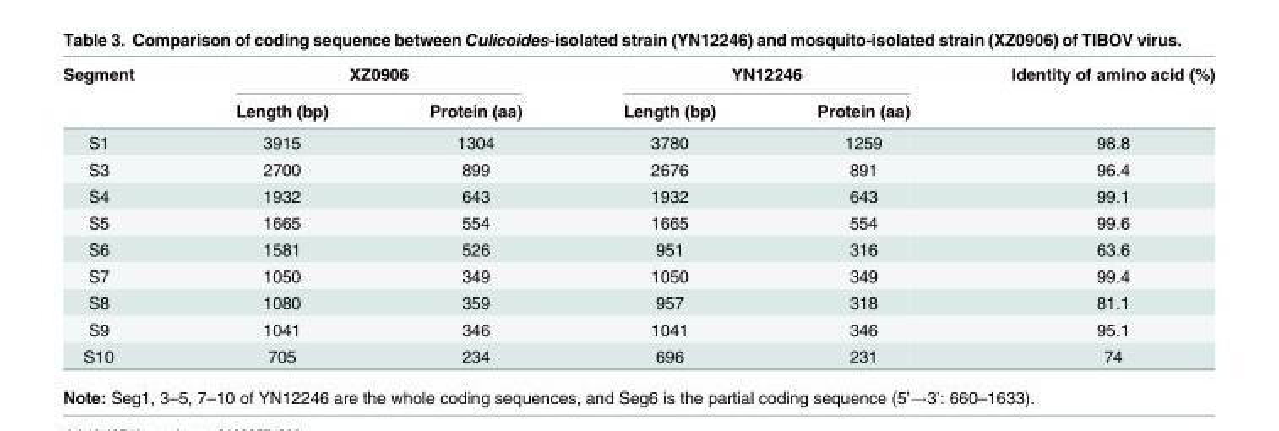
<table><thead><tr><td rowspan="2">Segment</td><td colspan="2">XZ0906</td><td colspan="2">YN12246</td><td rowspan="2">Identity of amino acid (%)</td></tr><tr><td>Length (bp)</td><td>Protein (aa)</td><td>Length (bp)</td><td>Protein (aa)</td></tr></thead><tbody><tr><td>S1</td><td>3915</td><td>1304</td><td>3780</td><td>1259</td><td>98.8</td></tr><tr><td>S3</td><td>2700</td><td>899</td><td>2676</td><td>891</td><td>96.4</td></tr><tr><td>S4</td><td>1932</td><td>643</td><td>1932</td><td>643</td><td>99.1</td></tr><tr><td>S5</td><td>1665</td><td>554</td><td>1665</td><td>554</td><td>99.6</td></tr><tr><td>S6</td><td>1581</td><td>526</td><td>951</td><td>316</td><td>63.6</td></tr><tr><td>S7</td><td>1050</td><td>349</td><td>1050</td><td>349</td><td>99.4</td></tr><tr><td>S8</td><td>1080</td><td>359</td><td>957</td><td>318</td><td>81.1</td></tr><tr><td>S9</td><td>1041</td><td>346</td><td>1041</td><td>346</td><td>95.1</td></tr><tr><td>S10</td><td>705</td><td>234</td><td>696</td><td>231</td><td>74</td></tr></tbody></table>